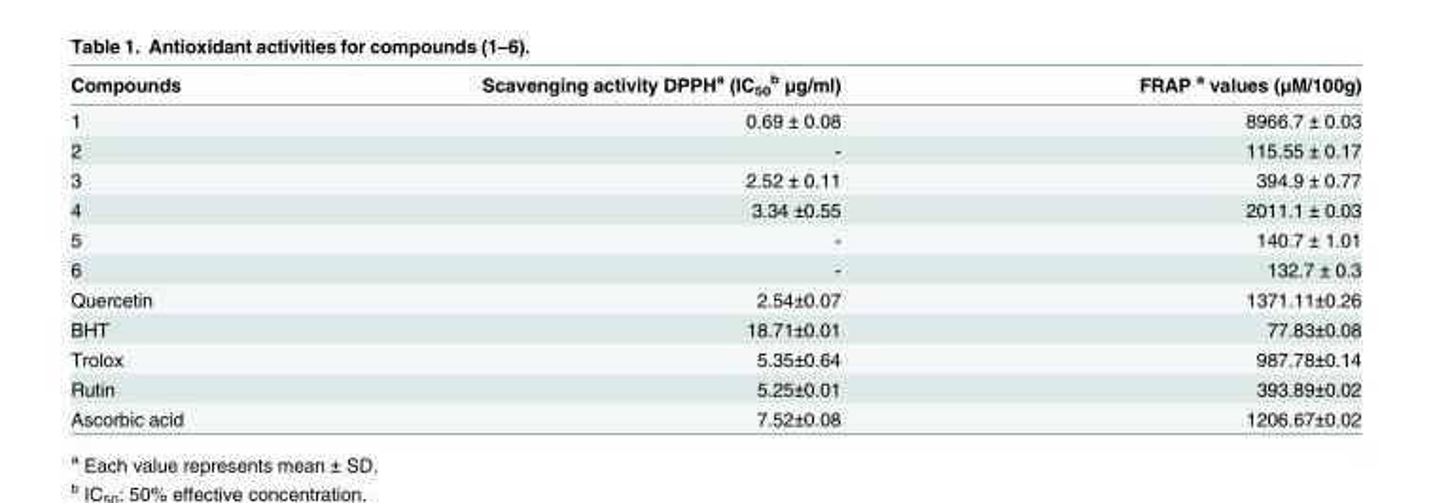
<table><thead><tr><td>Compounds</td><td>Scavenging activity DPPHa (IC50 b μg/ml)</td><td>FRAP a values (μM/100g)</td></tr></thead><tbody><tr><td>1</td><td>0.69 ± 0.08</td><td>8966.7 ± 0.03</td></tr><tr><td>2</td><td>-</td><td>115.55 ± 0.17</td></tr><tr><td>3</td><td>2.52 ± 0.11</td><td>394.9 ± 0.77</td></tr><tr><td>4</td><td>3.34 ±0.55</td><td>2011.1 ± 0.03</td></tr><tr><td>5</td><td>-</td><td>140.7 ± 1.01</td></tr><tr><td>6</td><td>-</td><td>132.7 ± 0.3</td></tr><tr><td>Quercetin</td><td>2.54±0.07</td><td>1371.11±0.26</td></tr><tr><td>BHT</td><td>18.71±0.01</td><td>77.83±0.08</td></tr><tr><td>Trolox</td><td>5.35±0.64</td><td>987.78±0.14</td></tr><tr><td>Rutin</td><td>5.25±0.01</td><td>393.89±0.02</td></tr><tr><td>Ascorbic acid</td><td>7.52±0.08</td><td>1206.67±0.02</td></tr></tbody></table>